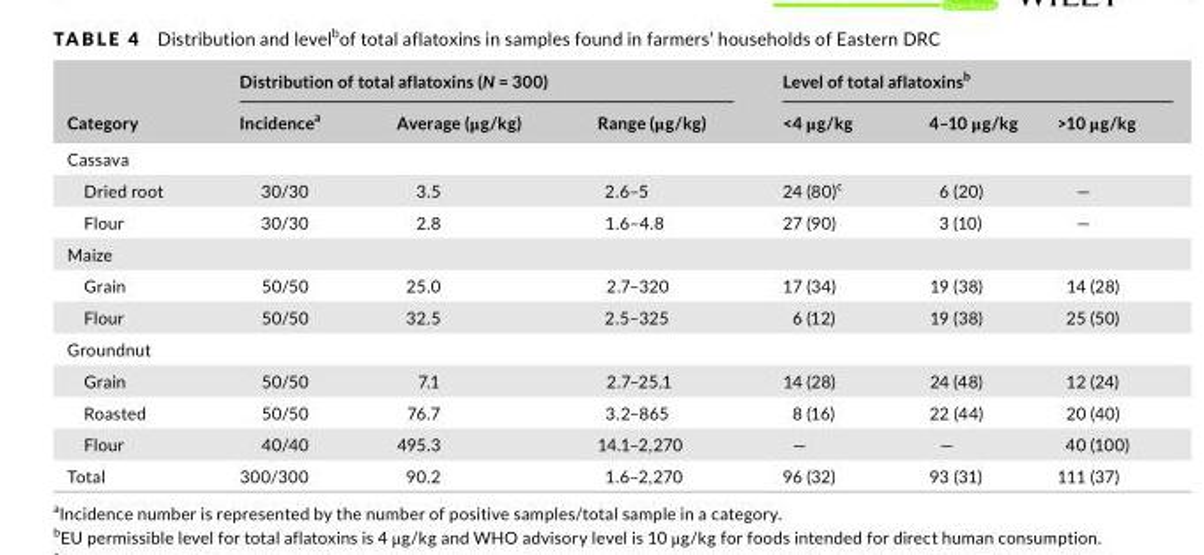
<table><thead><tr><td rowspan="2">Category</td><td colspan="3">Distribution of total aflatoxins (N = 300)</td><td colspan="3">Level of total aflatoxins<sup>b</sup></td></tr><tr><td>Incidence<sup>a</sup></td><td>Average (μg/kg)</td><td>Range (μg/kg)</td><td>&lt;4 μg/kg</td><td>4–10 μg/kg</td><td>&gt;10 μg/kg</td></tr></thead><tbody><tr><td colspan="7">Cassava</td></tr><tr><td>Dried root</td><td>30/30</td><td>3.5</td><td>2.6–5</td><td>24 (80)<sup>c</sup></td><td>6 (20)</td><td>—</td></tr><tr><td>Flour</td><td>30/30</td><td>2.8</td><td>1.6–4.8</td><td>27 (90)</td><td>3 (10)</td><td>—</td></tr><tr><td colspan="7">Maize</td></tr><tr><td>Grain</td><td>50/50</td><td>25.0</td><td>2.7–320</td><td>17 (34)</td><td>19 (38)</td><td>14 (28)</td></tr><tr><td>Flour</td><td>50/50</td><td>32.5</td><td>2.5–325</td><td>6 (12)</td><td>19 (38)</td><td>25 (50)</td></tr><tr><td colspan="7">Groundnut</td></tr><tr><td>Grain</td><td>50/50</td><td>7.1</td><td>2.7–25.1</td><td>14 (28)</td><td>24 (48)</td><td>12 (24)</td></tr><tr><td>Roasted</td><td>50/50</td><td>76.7</td><td>3.2–865</td><td>8 (16)</td><td>22 (44)</td><td>20 (40)</td></tr><tr><td>Flour</td><td>40/40</td><td>495.3</td><td>14.1–2,270</td><td>—</td><td>—</td><td>40 (100)</td></tr><tr><td>Total</td><td>300/300</td><td>90.2</td><td>1.6–2,270</td><td>96 (32)</td><td>93 (31)</td><td>111 (37)</td></tr></tbody></table>